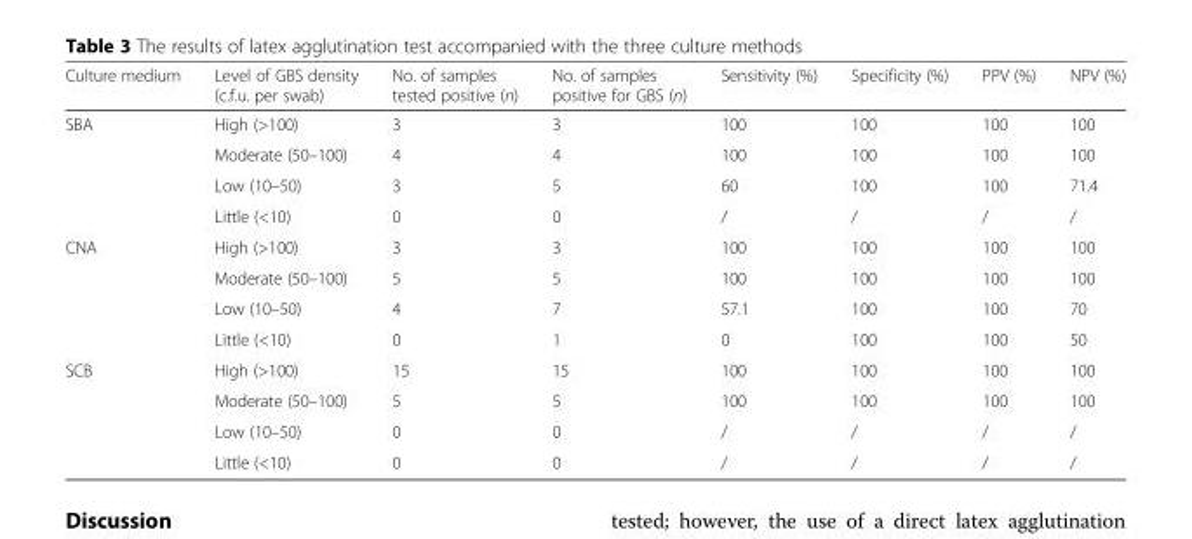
<table><thead><tr><td>Culture medium</td><td>Level of GBS density (c.f.u. per swab)</td><td>No. of samples tested positive (n)</td><td>No. of samples positive for GBS (n)</td><td>Sensitivity (%)</td><td>Specificity (%)</td><td>PPV (%)</td><td>NPV (%)</td></tr></thead><tbody><tr><td rowspan="4">SBA</td><td>High (&gt;100)</td><td>3</td><td>3</td><td>100</td><td>100</td><td>100</td><td>100</td></tr><tr><td>Moderate (50–100)</td><td>4</td><td>4</td><td>100</td><td>100</td><td>100</td><td>100</td></tr><tr><td>Low (10–50)</td><td>3</td><td>5</td><td>60</td><td>100</td><td>100</td><td>71.4</td></tr><tr><td>Little (&lt;10)</td><td>0</td><td>0</td><td>/</td><td>/</td><td>/</td><td>/</td></tr><tr><td rowspan="4">CNA</td><td>High (&gt;100)</td><td>3</td><td>3</td><td>100</td><td>100</td><td>100</td><td>100</td></tr><tr><td>Moderate (50–100)</td><td>5</td><td>5</td><td>100</td><td>100</td><td>100</td><td>100</td></tr><tr><td>Low (10–50)</td><td>4</td><td>7</td><td>57.1</td><td>100</td><td>100</td><td>70</td></tr><tr><td>Little (&lt;10)</td><td>0</td><td>1</td><td>0</td><td>100</td><td>100</td><td>50</td></tr><tr><td rowspan="4">SCB</td><td>High (&gt;100)</td><td>15</td><td>15</td><td>100</td><td>100</td><td>100</td><td>100</td></tr><tr><td>Moderate (50–100)</td><td>5</td><td>5</td><td>100</td><td>100</td><td>100</td><td>100</td></tr><tr><td>Low (10–50)</td><td>0</td><td>0</td><td>/</td><td>/</td><td>/</td><td>/</td></tr><tr><td>Little (&lt;10)</td><td>0</td><td>0</td><td>/</td><td>/</td><td>/</td><td>/</td></tr></tbody></table>